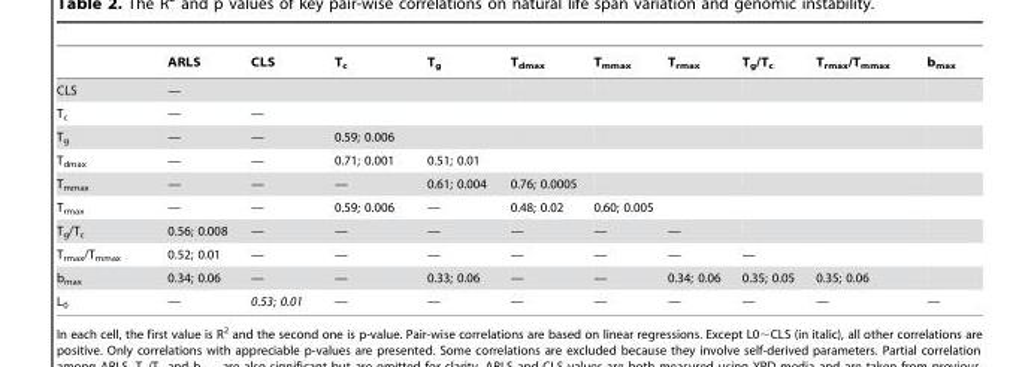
<table><thead><tr><td></td><td>ARLS</td><td>CLS</td><td>T<sub>c</sub></td><td>T<sub>g</sub></td><td>T<sub>dmax</sub></td><td>T<sub>mmax</sub></td><td>T<sub>rmax</sub></td><td>T<sub>g</sub>/T<sub>c</sub></td><td>T<sub>rmax</sub>/T<sub>mmax</sub></td><td>b<sub>max</sub></td></tr></thead><tbody><tr><td>CLS</td><td>—</td><td></td><td></td><td></td><td></td><td></td><td></td><td></td><td></td><td></td></tr><tr><td>T<sub>c</sub></td><td>—</td><td>—</td><td></td><td></td><td></td><td></td><td></td><td></td><td></td><td></td></tr><tr><td>T<sub>g</sub></td><td>—</td><td>—</td><td>0.59; 0.006</td><td></td><td></td><td></td><td></td><td></td><td></td><td></td></tr><tr><td>T<sub>dmax</sub></td><td>—</td><td>—</td><td>0.71; 0.001</td><td>0.51; 0.01</td><td></td><td></td><td></td><td></td><td></td><td></td></tr><tr><td>T<sub>mmax</sub></td><td>—</td><td>—</td><td>—</td><td>0.61; 0.004</td><td>0.76; 0.0005</td><td></td><td></td><td></td><td></td><td></td></tr><tr><td>T<sub>rmax</sub></td><td>—</td><td>—</td><td>0.59; 0.006</td><td>—</td><td>0.48; 0.02</td><td>0.60; 0.005</td><td></td><td></td><td></td><td></td></tr><tr><td>T<sub>g</sub>/T<sub>c</sub></td><td>0.56; 0.008</td><td>—</td><td>—</td><td>—</td><td>—</td><td>—</td><td>—</td><td></td><td></td><td></td></tr><tr><td>T<sub>rmax</sub>/T<sub>mmax</sub></td><td>0.52; 0.01</td><td>—</td><td>—</td><td>—</td><td>—</td><td>—</td><td>—</td><td>—</td><td></td><td></td></tr><tr><td>b<sub>max</sub></td><td>0.34; 0.06</td><td>—</td><td>—</td><td>0.33; 0.06</td><td>—</td><td>—</td><td>0.34; 0.06</td><td>0.35; 0.05</td><td>0.35; 0.06</td><td></td></tr><tr><td>L<sub>0</sub></td><td>—</td><td>0.53; 0.01</td><td>—</td><td>—</td><td>—</td><td>—</td><td>—</td><td>—</td><td>—</td><td>—</td></tr></tbody></table>